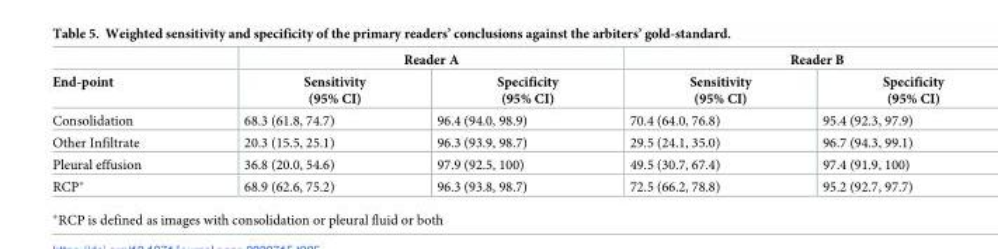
<table><thead><tr><td rowspan="2">End-point</td><td colspan="2">Reader A</td><td colspan="2">Reader B</td></tr><tr><td>Sensitivity (95% CI)</td><td>Specificity (95% CI)</td><td>Sensitivity (95% CI)</td><td>Specificity (95% CI)</td></tr></thead><tbody><tr><td>Consolidation</td><td>68.3 (61.8, 74.7)</td><td>96.4 (94.0, 98.9)</td><td>70.4 (64.0, 76.8)</td><td>95.4 (92.3, 97.9)</td></tr><tr><td>Other Infiltrate</td><td>20.3 (15.5, 25.1)</td><td>96.3 (93.9, 98.7)</td><td>29.5 (24.1, 35.0)</td><td>96.7 (94.3, 99.1)</td></tr><tr><td>Pleural effusion</td><td>36.8 (20.0, 54.6)</td><td>97.9 (92.5, 100)</td><td>49.5 (30.7, 67.4)</td><td>97.4 (91.9, 100)</td></tr><tr><td>RCP*</td><td>68.9 (62.6, 75.2)</td><td>96.3 (93.8, 98.7)</td><td>72.5 (66.2, 78.8)</td><td>95.2 (92.7, 97.7)</td></tr></tbody></table>